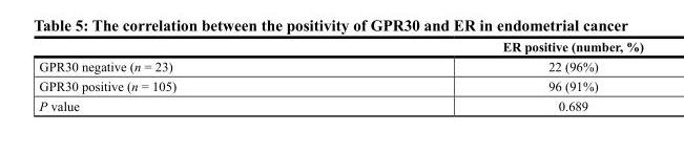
<table><thead><tr><td></td><td>ER positive (number, %)</td></tr></thead><tbody><tr><td>GPR30 negative (n = 23)</td><td>22 (96%)</td></tr><tr><td>GPR30 positive (n = 105)</td><td>96 (91%)</td></tr><tr><td>P value</td><td>0.689</td></tr></tbody></table>